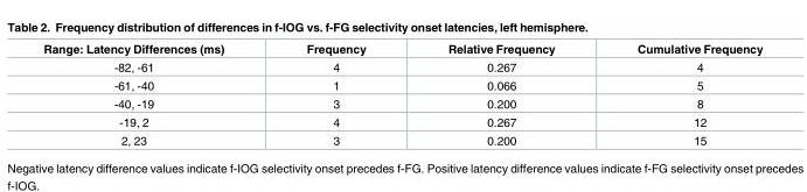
<table><thead><tr><td>Range: Latency Differences (ms)</td><td>Frequency</td><td>Relative Frequency</td><td>Cumulative Frequency</td></tr></thead><tbody><tr><td>-82, -61</td><td>4</td><td>0.267</td><td>4</td></tr><tr><td>-61, -40</td><td>1</td><td>0.066</td><td>5</td></tr><tr><td>-40, -19</td><td>3</td><td>0.200</td><td>8</td></tr><tr><td>-19, 2</td><td>4</td><td>0.267</td><td>12</td></tr><tr><td>2, 23</td><td>3</td><td>0.200</td><td>15</td></tr></tbody></table>